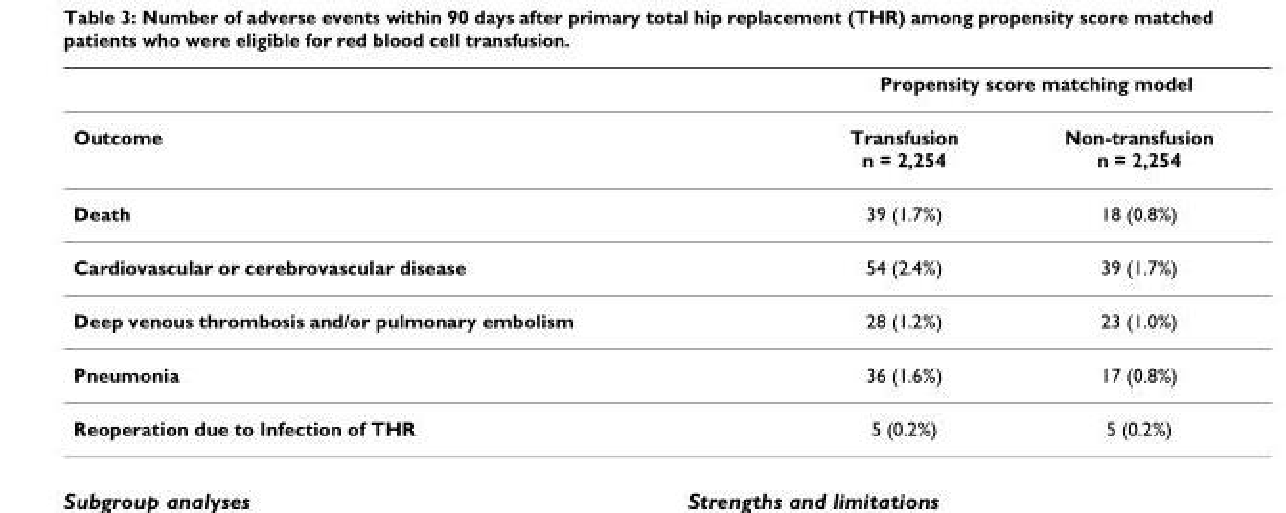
<table><thead><tr><td rowspan="2">Outcome</td><td colspan="2">Propensity score matching model</td></tr><tr><td>Transfusion n = 2,254</td><td>Non-transfusion n = 2,254</td></tr></thead><tbody><tr><td>Death</td><td>39 (1.7%)</td><td>18 (0.8%)</td></tr><tr><td>Cardiovascular or cerebrovascular disease</td><td>54 (2.4%)</td><td>39 (1.7%)</td></tr><tr><td>Deep venous thrombosis and/or pulmonary embolism</td><td>28 (1.2%)</td><td>23 (1.0%)</td></tr><tr><td>Pneumonia</td><td>36 (1.6%)</td><td>17 (0.8%)</td></tr><tr><td>Reoperation due to Infection of THR</td><td>5 (0.2%)</td><td>5 (0.2%)</td></tr></tbody></table>